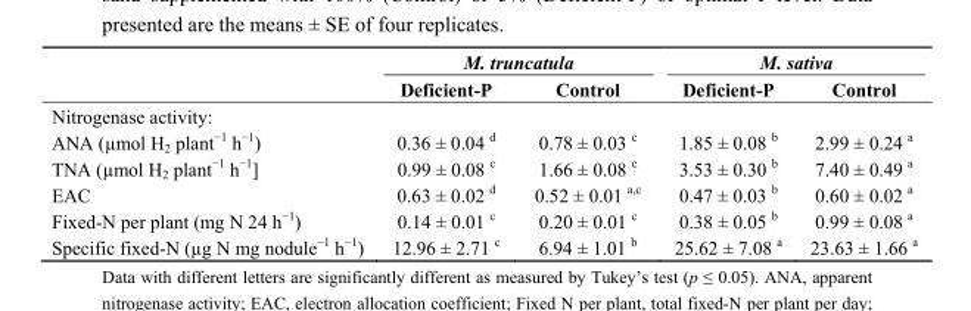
<table><thead><tr><td rowspan="2"></td><td colspan="2">M. truncatula</td><td colspan="2">M. sativa</td></tr><tr><td>Deficient-P</td><td>Control</td><td>Deficient-P</td><td>Control</td></tr></thead><tbody><tr><td colspan="5">Nitrogenase activity:</td></tr><tr><td>ANA (µmol H<sub>2</sub> plant<sup>−1</sup> h<sup>−1</sup>)</td><td>0.36 ± 0.04 <sup>d</sup></td><td>0.78 ± 0.03 <sup>c</sup></td><td>1.85 ± 0.08 <sup>b</sup></td><td>2.99 ± 0.24 <sup>a</sup></td></tr><tr><td>TNA (µmol H<sub>2</sub> plant<sup>−1</sup> h<sup>−1</sup>]</td><td>0.99 ± 0.08 <sup>c</sup></td><td>1.66 ± 0.08 <sup>c</sup></td><td>3.53 ± 0.30 <sup>b</sup></td><td>7.40 ± 0.49 <sup>a</sup></td></tr><tr><td>EAC</td><td>0.63 ± 0.02 <sup>d</sup></td><td>0.52 ± 0.01 <sup>a,c</sup></td><td>0.47 ± 0.03 <sup>b</sup></td><td>0.60 ± 0.02 <sup>a</sup></td></tr><tr><td>Fixed-N per plant (mg N 24 h<sup>−1</sup>)</td><td>0.14 ± 0.01 <sup>c</sup></td><td>0.20 ± 0.01 <sup>c</sup></td><td>0.38 ± 0.05 <sup>b</sup></td><td>0.99 ± 0.08 <sup>a</sup></td></tr><tr><td>Specific fixed-N (µg N mg nodule<sup>−1</sup> h<sup>−1</sup>)</td><td>12.96 ± 2.71 <sup>c</sup></td><td>6.94 ± 1.01 <sup>b</sup></td><td>25.62 ± 7.08 <sup>a</sup></td><td>23.63 ± 1.66 <sup>a</sup></td></tr></tbody></table>